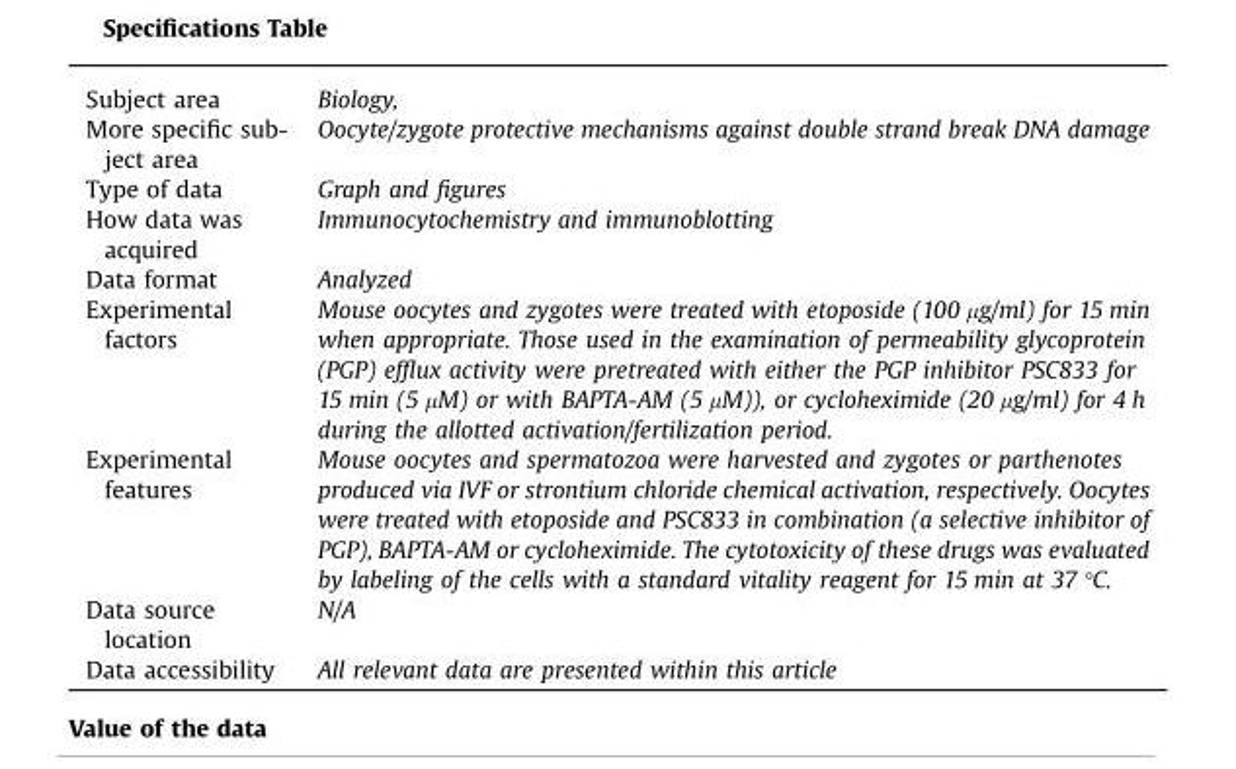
<table><tbody><tr><td>Subject area</td><td>Biology,</td></tr><tr><td>More specific sub- ject area</td><td>Oocyte/zygote protective mechanisms against double strand break DNA damage</td></tr><tr><td>Type of data</td><td>Graph and figures</td></tr><tr><td>How data was acquired</td><td>Immunocytochemistry and immunoblotting</td></tr><tr><td>Data format</td><td>Analyzed</td></tr><tr><td>Experimental factors</td><td>Mouse oocytes and zygotes were treated with etoposide (100 µg/ml) for 15 min when appropriate. Those used in the examination of permeability glycoprotein (PGP) efflux activity were pretreated with either the PGP inhibitor PSC833 for 15 min (5 µM) or with BAPTA-AM (5 µM)), or cycloheximide (20 µg/ml) for 4 h during the allotted activation/fertilization period.</td></tr><tr><td>Experimental features</td><td>Mouse oocytes and spermatozoa were harvested and zygotes or parthenotes produced via IVF or strontium chloride chemical activation, respectively. Oocytes were treated with etoposide and PSC833 in combination (a selective inhibitor of PGP), BAPTA-AM or cycloheximide. The cytotoxicity of these drugs was evaluated by labeling of the cells with a standard vitality reagent for 15 min at 37 °C.</td></tr><tr><td>Data source location</td><td>N/A</td></tr><tr><td>Data accessibility</td><td>All relevant data are presented within this article</td></tr></tbody></table>